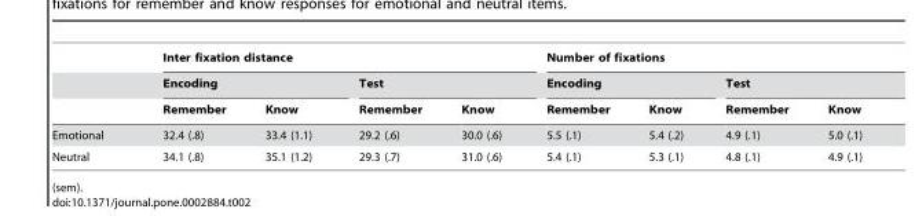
<table><thead><tr><td rowspan="3"></td><td colspan="4">Inter fixation distance</td><td colspan="4">Number of fixations</td></tr><tr><td colspan="2">Encoding</td><td colspan="2">Test</td><td colspan="2">Encoding</td><td colspan="2">Test</td></tr><tr><td>Remember</td><td>Know</td><td>Remember</td><td>Know</td><td>Remember</td><td>Know</td><td>Remember</td><td>Know</td></tr></thead><tbody><tr><td>Emotional</td><td>32.4 (.8)</td><td>33.4 (1.1)</td><td>29.2 (.6)</td><td>30.0 (.6)</td><td>5.5 (.1)</td><td>5.4 (.2)</td><td>4.9 (.1)</td><td>5.0 (.1)</td></tr><tr><td>Neutral</td><td>34.1 (.8)</td><td>35.1 (1.2)</td><td>29.3 (.7)</td><td>31.0 (.6)</td><td>5.4 (.1)</td><td>5.3 (.1)</td><td>4.8 (.1)</td><td>4.9 (.1)</td></tr></tbody></table>